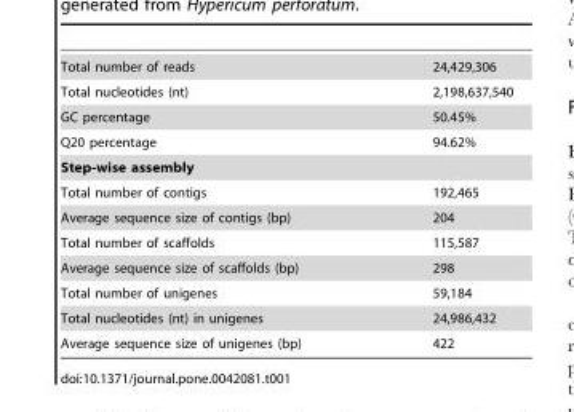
<table><tbody><tr><td>Total number of reads</td><td>24,429,306</td></tr><tr><td>Total nucleotides (nt)</td><td>2,198,637,540</td></tr><tr><td>GC percentage</td><td>50.45%</td></tr><tr><td>Q20 percentage</td><td>94.62%</td></tr><tr><td colspan="2">Step-wise assembly</td></tr><tr><td>Total number of contigs</td><td>192,465</td></tr><tr><td>Average sequence size of contigs (bp)</td><td>204</td></tr><tr><td>Total number of scaffolds</td><td>115,587</td></tr><tr><td>Average sequence size of scaffolds (bp)</td><td>298</td></tr><tr><td>Total number of unigenes</td><td>59,184</td></tr><tr><td>Total nucleotides (nt) in unigenes</td><td>24,986,432</td></tr><tr><td>Average sequence size of unigenes (bp)</td><td>422</td></tr></tbody></table>